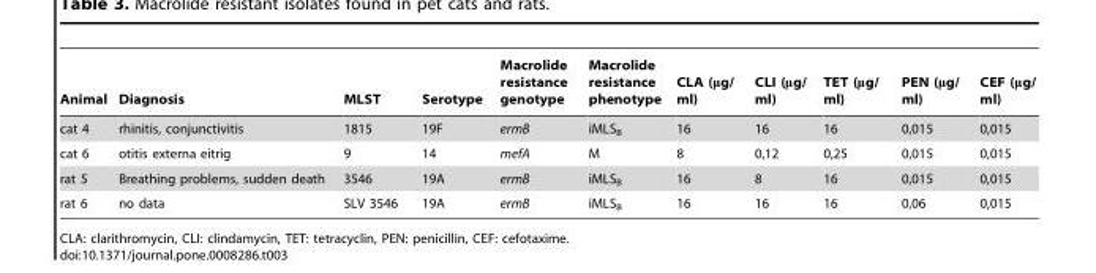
<table><thead><tr><td>Animal</td><td>Diagnosis</td><td>MLST</td><td>Serotype</td><td>Macrolide resistance genotype</td><td>Macrolide resistance phenotype</td><td>CLA (μg/ ml)</td><td>CLI (μg/ ml)</td><td>TET (μg/ ml)</td><td>PEN (μg/ ml)</td><td>CEF (μg/ ml)</td></tr></thead><tbody><tr><td>cat 4</td><td>rhinitis, conjunctivitis</td><td>1815</td><td>19F</td><td>ermB</td><td>iMLS<sub>B</sub></td><td>16</td><td>16</td><td>16</td><td>0,015</td><td>0,015</td></tr><tr><td>cat 6</td><td>otitis externa eitrig</td><td>9</td><td>14</td><td>mefA</td><td>M</td><td>8</td><td>0,12</td><td>0,25</td><td>0,015</td><td>0,015</td></tr><tr><td>rat 5</td><td>Breathing problems, sudden death</td><td>3546</td><td>19A</td><td>ermB</td><td>iMLS<sub>B</sub></td><td>16</td><td>8</td><td>16</td><td>0,015</td><td>0,015</td></tr><tr><td>rat 6</td><td>no data</td><td>SLV 3546</td><td>19A</td><td>ermB</td><td>iMLS<sub>B</sub></td><td>16</td><td>16</td><td>16</td><td>0,06</td><td>0,015</td></tr></tbody></table>